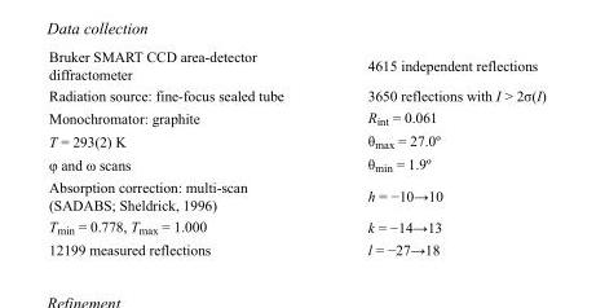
<table><tbody><tr><td>Bruker SMART CCD area-detector diffractometer</td><td>4615 independent reflections</td></tr><tr><td>Radiation source: fine-focus sealed tube</td><td>3650 reflections with I &gt; 2σ(I)</td></tr><tr><td>Monochromator: graphite</td><td>R<sub>int</sub> = 0.061</td></tr><tr><td>T = 293(2) K</td><td>θ<sub>max</sub> = 27.0º</td></tr><tr><td>φ and ω scans</td><td>θ<sub>min</sub> = 1.9º</td></tr><tr><td>Absorption correction: multi-scan (SADABS; Sheldrick, 1996)</td><td>h = −10→10</td></tr><tr><td>T<sub>min</sub> = 0.778, T<sub>max</sub> = 1.000</td><td>k = −14→13</td></tr><tr><td>12199 measured reflections</td><td>l = −27→18</td></tr></tbody></table>